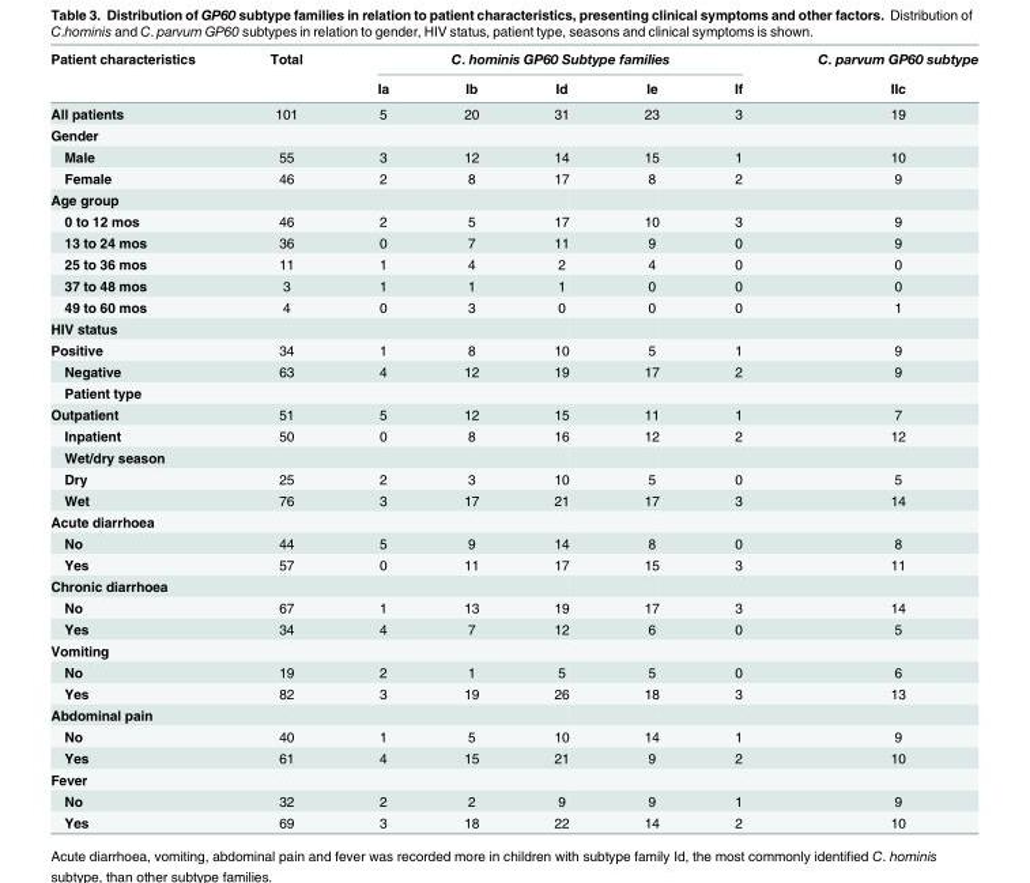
<table><thead><tr><td rowspan="2">Patient characteristics</td><td rowspan="2">Total</td><td colspan="5">C. hominis GP60 Subtype families</td><td rowspan="2">C. parvum GP60 subtype IIc</td></tr><tr><td>Ia</td><td>Ib</td><td>Id</td><td>Ie</td><td>If</td></tr></thead><tbody><tr><td>All patients</td><td>101</td><td>5</td><td>20</td><td>31</td><td>23</td><td>3</td><td>19</td></tr><tr><td colspan="8">Gender</td></tr><tr><td>Male</td><td>55</td><td>3</td><td>12</td><td>14</td><td>15</td><td>1</td><td>10</td></tr><tr><td>Female</td><td>46</td><td>2</td><td>8</td><td>17</td><td>8</td><td>2</td><td>9</td></tr><tr><td colspan="8">Age group</td></tr><tr><td>0 to 12 mos</td><td>46</td><td>2</td><td>5</td><td>17</td><td>10</td><td>3</td><td>9</td></tr><tr><td>13 to 24 mos</td><td>36</td><td>0</td><td>7</td><td>11</td><td>9</td><td>0</td><td>9</td></tr><tr><td>25 to 36 mos</td><td>11</td><td>1</td><td>4</td><td>2</td><td>4</td><td>0</td><td>0</td></tr><tr><td>37 to 48 mos</td><td>3</td><td>1</td><td>1</td><td>1</td><td>0</td><td>0</td><td>0</td></tr><tr><td>49 to 60 mos</td><td>4</td><td>0</td><td>3</td><td>0</td><td>0</td><td>0</td><td>1</td></tr><tr><td colspan="8">HIV status</td></tr><tr><td>Positive</td><td>34</td><td>1</td><td>8</td><td>10</td><td>5</td><td>1</td><td>9</td></tr><tr><td>Negative</td><td>63</td><td>4</td><td>12</td><td>19</td><td>17</td><td>2</td><td>9</td></tr><tr><td colspan="8">Patient type</td></tr><tr><td>Outpatient</td><td>51</td><td>5</td><td>12</td><td>15</td><td>11</td><td>1</td><td>7</td></tr><tr><td>Inpatient</td><td>50</td><td>0</td><td>8</td><td>16</td><td>12</td><td>2</td><td>12</td></tr><tr><td colspan="8">Wet/dry season</td></tr><tr><td>Dry</td><td>25</td><td>2</td><td>3</td><td>10</td><td>5</td><td>0</td><td>5</td></tr><tr><td>Wet</td><td>76</td><td>3</td><td>17</td><td>21</td><td>17</td><td>3</td><td>14</td></tr><tr><td colspan="8">Acute diarrhoea</td></tr><tr><td>No</td><td>44</td><td>5</td><td>9</td><td>14</td><td>8</td><td>0</td><td>8</td></tr><tr><td>Yes</td><td>57</td><td>0</td><td>11</td><td>17</td><td>15</td><td>3</td><td>11</td></tr><tr><td colspan="8">Chronic diarrhoea</td></tr><tr><td>No</td><td>67</td><td>1</td><td>13</td><td>19</td><td>17</td><td>3</td><td>14</td></tr><tr><td>Yes</td><td>34</td><td>4</td><td>7</td><td>12</td><td>6</td><td>0</td><td>5</td></tr><tr><td colspan="8">Vomiting</td></tr><tr><td>No</td><td>19</td><td>2</td><td>1</td><td>5</td><td>5</td><td>0</td><td>6</td></tr><tr><td>Yes</td><td>82</td><td>3</td><td>19</td><td>26</td><td>18</td><td>3</td><td>13</td></tr><tr><td colspan="8">Abdominal pain</td></tr><tr><td>No</td><td>40</td><td>1</td><td>5</td><td>10</td><td>14</td><td>1</td><td>9</td></tr><tr><td>Yes</td><td>61</td><td>4</td><td>15</td><td>21</td><td>9</td><td>2</td><td>10</td></tr><tr><td colspan="8">Fever</td></tr><tr><td>No</td><td>32</td><td>2</td><td>2</td><td>9</td><td>9</td><td>1</td><td>9</td></tr><tr><td>Yes</td><td>69</td><td>3</td><td>18</td><td>22</td><td>14</td><td>2</td><td>10</td></tr></tbody></table>